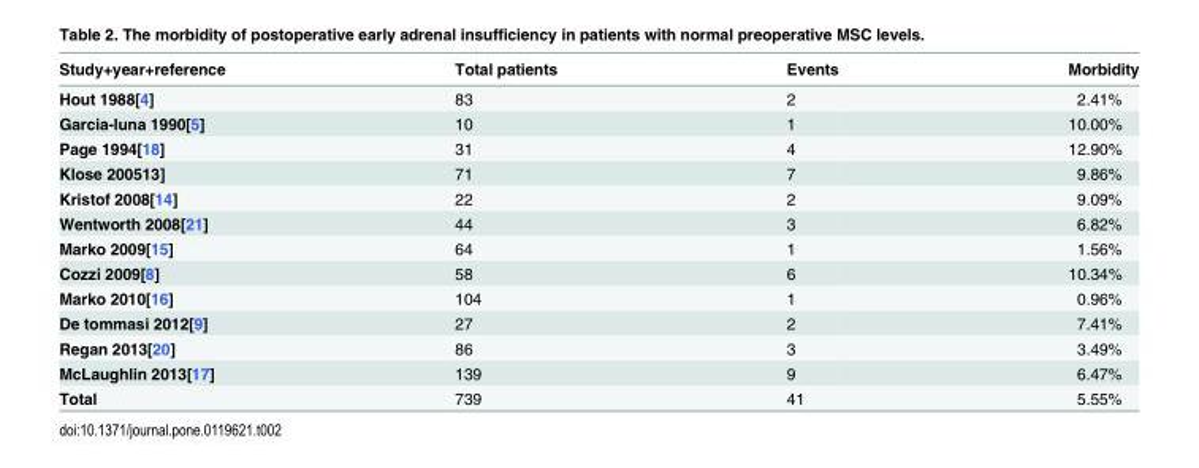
<table><thead><tr><td>Study+year+reference</td><td>Total patients</td><td>Events</td><td>Morbidity</td></tr></thead><tbody><tr><td>Hout 1988[4]</td><td>83</td><td>2</td><td>2.41%</td></tr><tr><td>Garcia-luna 1990[5]</td><td>10</td><td>1</td><td>10.00%</td></tr><tr><td>Page 1994[18]</td><td>31</td><td>4</td><td>12.90%</td></tr><tr><td>Klose 200513]</td><td>71</td><td>7</td><td>9.86%</td></tr><tr><td>Kristof 2008[14]</td><td>22</td><td>2</td><td>9.09%</td></tr><tr><td>Wentworth 2008[21]</td><td>44</td><td>3</td><td>6.82%</td></tr><tr><td>Marko 2009[15]</td><td>64</td><td>1</td><td>1.56%</td></tr><tr><td>Cozzi 2009[8]</td><td>58</td><td>6</td><td>10.34%</td></tr><tr><td>Marko 2010[16]</td><td>104</td><td>1</td><td>0.96%</td></tr><tr><td>De tommasi 2012[9]</td><td>27</td><td>2</td><td>7.41%</td></tr><tr><td>Regan 2013[20]</td><td>86</td><td>3</td><td>3.49%</td></tr><tr><td>McLaughlin 2013[17]</td><td>139</td><td>9</td><td>6.47%</td></tr><tr><td>Total</td><td>739</td><td>41</td><td>5.55%</td></tr></tbody></table>